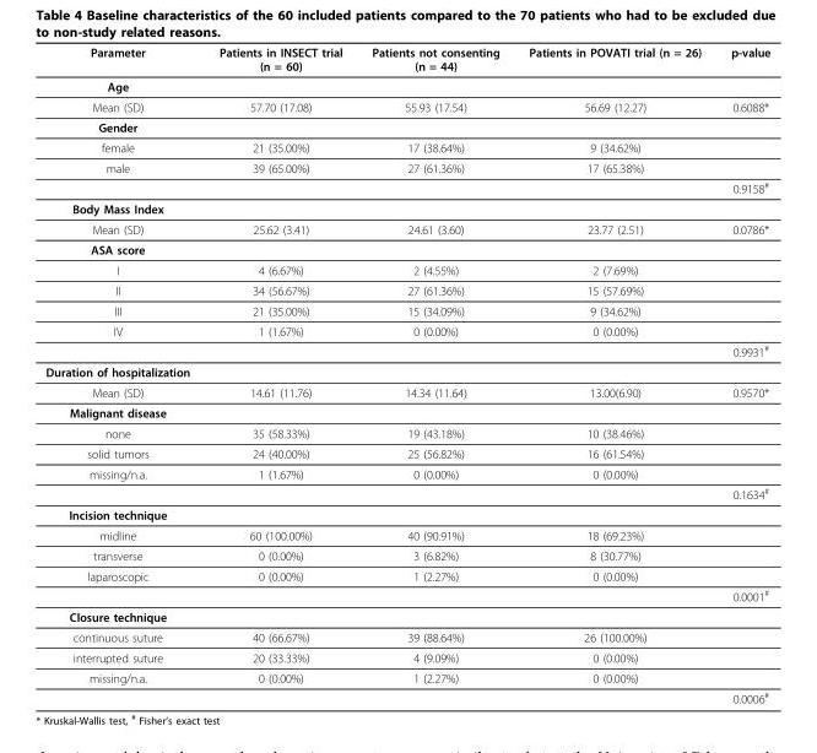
<table><thead><tr><td>Parameter</td><td>Patients in INSECT trial (n = 60)</td><td>Patients not consenting (n = 44)</td><td>Patients in POVATI trial (n = 26)</td><td>p-value</td></tr></thead><tbody><tr><td colspan="5">Age</td></tr><tr><td>Mean (SD)</td><td>57.70 (17.08)</td><td>55.93 (17.54)</td><td>56.69 (12.27)</td><td>0.6088*</td></tr><tr><td colspan="5">Gender</td></tr><tr><td>female</td><td>21 (35.00%)</td><td>17 (38.64%)</td><td>9 (34.62%)</td><td></td></tr><tr><td rowspan="2">male</td><td>39 (65.00%)</td><td>27 (61.36%)</td><td>17 (65.38%)</td><td></td></tr><tr><td></td><td></td><td></td><td>0.9158<sup>#</sup></td></tr><tr><td colspan="5">Body Mass Index</td></tr><tr><td>Mean (SD)</td><td>25.62 (3.41)</td><td>24.61 (3.60)</td><td>23.77 (2.51)</td><td>0.0786*</td></tr><tr><td colspan="5">ASA score</td></tr><tr><td>I</td><td>4 (6.67%)</td><td>2 (4.55%)</td><td>2 (7.69%)</td><td></td></tr><tr><td>II</td><td>34 (56.67%)</td><td>27 (61.36%)</td><td>15 (57.69%)</td><td></td></tr><tr><td>III</td><td>21 (35.00%)</td><td>15 (34.09%)</td><td>9 (34.62%)</td><td></td></tr><tr><td rowspan="2">IV</td><td>1 (1.67%)</td><td>0 (0.00%)</td><td>0 (0.00%)</td><td></td></tr><tr><td></td><td></td><td></td><td>0.9931<sup>#</sup></td></tr><tr><td colspan="5">Duration of hospitalization</td></tr><tr><td>Mean (SD)</td><td>14.61 (11.76)</td><td>14.34 (11.64)</td><td>13.00(6.90)</td><td>0.9570*</td></tr><tr><td colspan="5">Malignant disease</td></tr><tr><td>none</td><td>35 (58.33%)</td><td>19 (43.18%)</td><td>10 (38.46%)</td><td></td></tr><tr><td>solid tumors</td><td>24 (40.00%)</td><td>25 (56.82%)</td><td>16 (61.54%)</td><td></td></tr><tr><td rowspan="2">missing/n.a.</td><td>1 (1.67%)</td><td>0 (0.00%)</td><td>0 (0.00%)</td><td></td></tr><tr><td></td><td></td><td></td><td>0.1634<sup>#</sup></td></tr><tr><td colspan="5">Incision technique</td></tr><tr><td>midline</td><td>60 (100.00%)</td><td>40 (90.91%)</td><td>18 (69.23%)</td><td></td></tr><tr><td>transverse</td><td>0 (0.00%)</td><td>3 (6.82%)</td><td>8 (30.77%)</td><td></td></tr><tr><td rowspan="2">laparoscopic</td><td>0 (0.00%)</td><td>1 (2.27%)</td><td>0 (0.00%)</td><td></td></tr><tr><td></td><td></td><td></td><td>0.0001<sup>#</sup></td></tr><tr><td colspan="5">Closure technique</td></tr><tr><td>continuous suture</td><td>40 (66.67%)</td><td>39 (88.64%)</td><td>26 (100.00%)</td><td></td></tr><tr><td>interrupted suture</td><td>20 (33.33%)</td><td>4 (9.09%)</td><td>0 (0.00%)</td><td></td></tr><tr><td rowspan="2">missing/n.a.</td><td>0 (0.00%)</td><td>1 (2.27%)</td><td>0 (0.00%)</td><td></td></tr><tr><td></td><td></td><td></td><td>0.0006<sup>#</sup></td></tr></tbody></table>